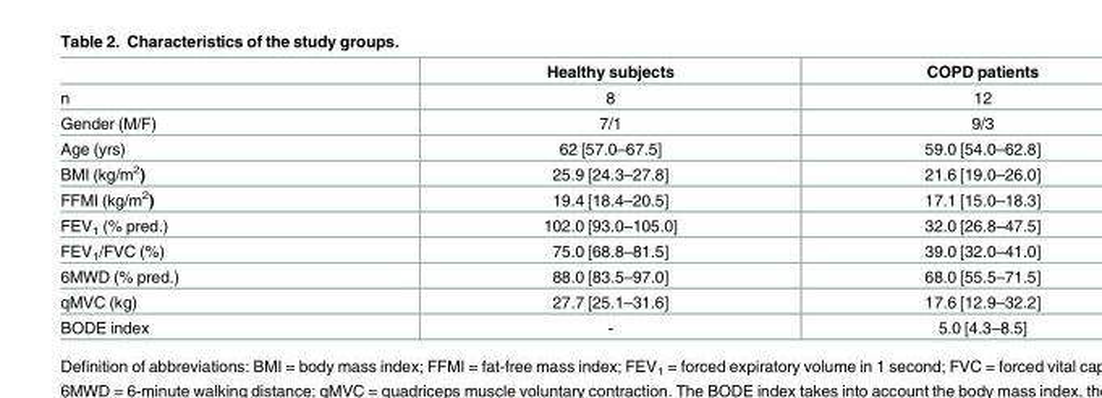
<table><thead><tr><td></td><td>Healthy subjects</td><td>COPD patients</td></tr></thead><tbody><tr><td>n</td><td>8</td><td>12</td></tr><tr><td>Gender (M/F)</td><td>7/1</td><td>9/3</td></tr><tr><td>Age (yrs)</td><td>62 [57.0–67.5]</td><td>59.0 [54.0–62.8]</td></tr><tr><td>BMI (kg/m<sup>2</sup>)</td><td>25.9 [24.3–27.8]</td><td>21.6 [19.0–26.0]</td></tr><tr><td>FFMI (kg/m<sup>2</sup>)</td><td>19.4 [18.4–20.5]</td><td>17.1 [15.0–18.3]</td></tr><tr><td>FEV<sub>1</sub> (% pred.)</td><td>102.0 [93.0–105.0]</td><td>32.0 [26.8–47.5]</td></tr><tr><td>FEV<sub>1</sub>/FVC (%)</td><td>75.0 [68.8–81.5]</td><td>39.0 [32.0–41.0]</td></tr><tr><td>6MWD (% pred.)</td><td>88.0 [83.5–97.0]</td><td>68.0 [55.5–71.5]</td></tr><tr><td>qMVC (kg)</td><td>27.7 [25.1–31.6]</td><td>17.6 [12.9–32.2]</td></tr><tr><td>BODE index</td><td>-</td><td>5.0 [4.3–8.5]</td></tr></tbody></table>